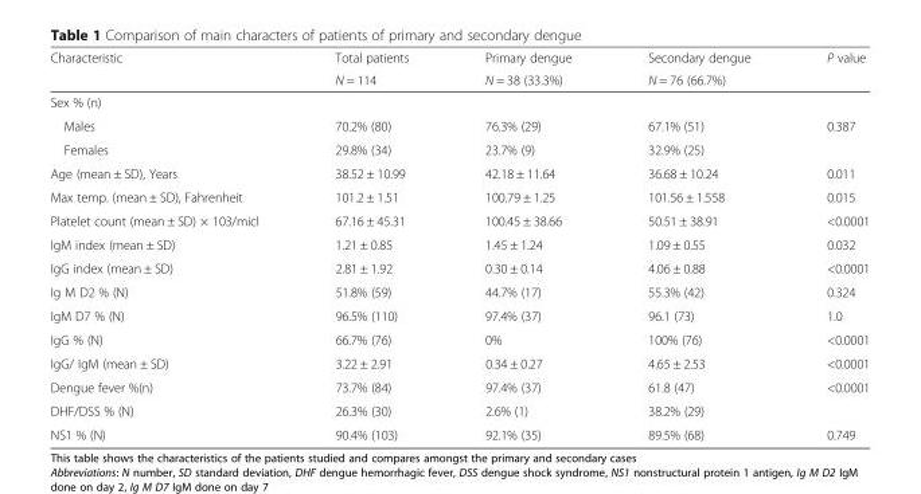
<table><thead><tr><td rowspan="2">Characteristic</td><td rowspan="2">Total patients N = 114</td><td rowspan="2">Primary dengue N = 38 (33.3%)</td><td rowspan="2">Secondary dengue N = 76 (66.7%)</td><td rowspan="2">P value</td></tr><tr></tr></thead><tbody><tr><td colspan="5">Sex % (n)</td></tr><tr><td>Males</td><td>70.2% (80)</td><td>76.3% (29)</td><td>67.1% (51)</td><td rowspan="2">0.387</td></tr><tr><td>Females</td><td>29.8% (34)</td><td>23.7% (9)</td><td>32.9% (25)</td></tr><tr><td>Age (mean ± SD), Years</td><td>38.52 ± 10.99</td><td>42.18 ± 11.64</td><td>36.68 ± 10.24</td><td>0.011</td></tr><tr><td>Max temp. (mean ± SD), Fahrenheit</td><td>101.2 ± 1.51</td><td>100.79 ± 1.25</td><td>101.56 ± 1.558</td><td>0.015</td></tr><tr><td>Platelet count (mean ± SD) × 103/micl</td><td>67.16 ± 45.31</td><td>100.45 ± 38.66</td><td>50.51 ± 38.91</td><td>&lt;0.0001</td></tr><tr><td>IgM index (mean ± SD)</td><td>1.21 ± 0.85</td><td>1.45 ± 1.24</td><td>1.09 ± 0.55</td><td>0.032</td></tr><tr><td>IgG index (mean ± SD)</td><td>2.81 ± 1.92</td><td>0.30 ± 0.14</td><td>4.06 ± 0.88</td><td>&lt;0.0001</td></tr><tr><td>Ig M D2 % (N)</td><td>51.8% (59)</td><td>44.7% (17)</td><td>55.3% (42)</td><td>0.324</td></tr><tr><td>IgM D7 % (N)</td><td>96.5% (110)</td><td>97.4% (37)</td><td>96.1 (73)</td><td>1.0</td></tr><tr><td>IgG % (N)</td><td>66.7% (76)</td><td>0%</td><td>100% (76)</td><td>&lt;0.0001</td></tr><tr><td>IgG/ IgM (mean ± SD)</td><td>3.22 ± 2.91</td><td>0.34 ± 0.27</td><td>4.65 ± 2.53</td><td>&lt;0.0001</td></tr><tr><td>Dengue fever %(n)</td><td>73.7% (84)</td><td>97.4% (37)</td><td>61.8 (47)</td><td rowspan="2">&lt;0.0001</td></tr><tr><td>DHF/DSS % (N)</td><td>26.3% (30)</td><td>2.6% (1)</td><td>38.2% (29)</td></tr><tr><td>NS1 % (N)</td><td>90.4% (103)</td><td>92.1% (35)</td><td>89.5% (68)</td><td>0.749</td></tr></tbody></table>